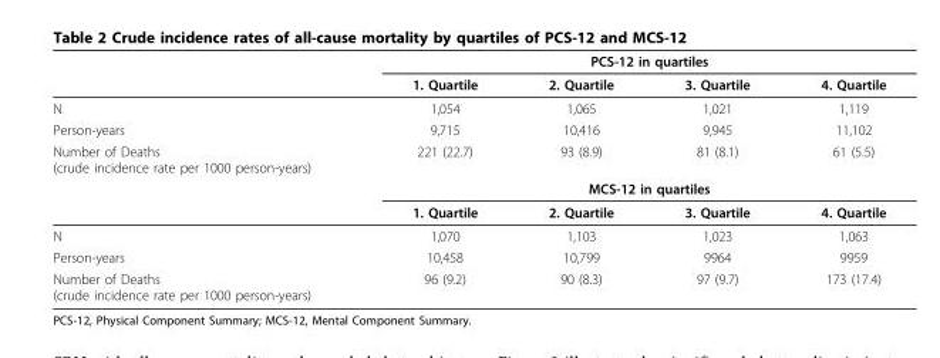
<table><thead><tr><td rowspan="2"></td><td colspan="4">PCS-12 in quartiles</td></tr><tr><td>1. Quartile</td><td>2. Quartile</td><td>3. Quartile</td><td>4. Quartile</td></tr></thead><tbody><tr><td>N</td><td>1,054</td><td>1,065</td><td>1,021</td><td>1,119</td></tr><tr><td>Person-years</td><td>9,715</td><td>10,416</td><td>9,945</td><td>11,102</td></tr><tr><td rowspan="3">Number of Deaths (crude incidence rate per 1000 person-years)</td><td>221 (22.7)</td><td>93 (8.9)</td><td>81 (8.1)</td><td>61 (5.5)</td></tr><tr><td colspan="4">MCS-12 in quartiles</td></tr><tr><td>1. Quartile</td><td>2. Quartile</td><td>3. Quartile</td><td>4. Quartile</td></tr><tr><td>N</td><td>1,070</td><td>1,103</td><td>1,023</td><td>1,063</td></tr><tr><td>Person-years</td><td>10,458</td><td>10,799</td><td>9964</td><td>9959</td></tr><tr><td>Number of Deaths (crude incidence rate per 1000 person-years)</td><td>96 (9.2)</td><td>90 (8.3)</td><td>97 (9.7)</td><td>173 (17.4)</td></tr></tbody></table>